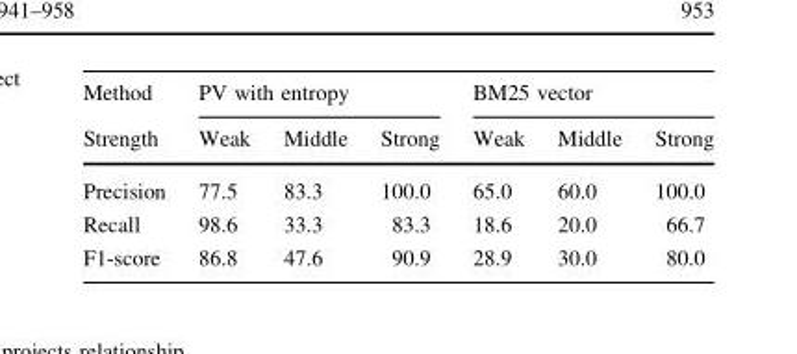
<table><thead><tr><td rowspan="2">Method Strength</td><td colspan="3">PV with entropy</td><td colspan="3">BM25 vector</td></tr><tr><td>Weak</td><td>Middle</td><td>Strong</td><td>Weak</td><td>Middle</td><td>Strong</td></tr></thead><tbody><tr><td>Precision</td><td>77.5</td><td>83.3</td><td>100.0</td><td>65.0</td><td>60.0</td><td>100.0</td></tr><tr><td>Recall</td><td>98.6</td><td>33.3</td><td>83.3</td><td>18.6</td><td>20.0</td><td>66.7</td></tr><tr><td>F1-score</td><td>86.8</td><td>47.6</td><td>90.9</td><td>28.9</td><td>30.0</td><td>80.0</td></tr></tbody></table>